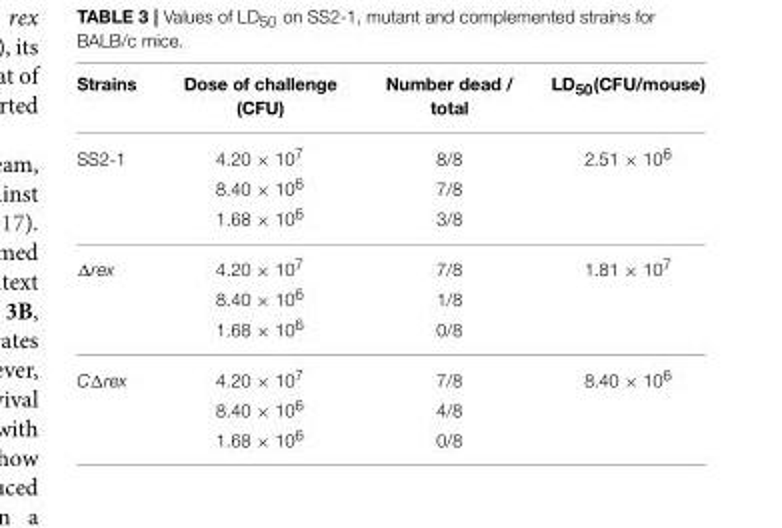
<table><thead><tr><td>Strains</td><td>Dose of challenge (CFU)</td><td>Number dead / total</td><td>LD<sub>50</sub>(CFU/mouse)</td></tr></thead><tbody><tr><td rowspan="3">SS2-1</td><td>4.20 × 10<sup>7</sup></td><td>8/8</td><td>2.51 × 10<sup>6</sup></td></tr><tr><td>8.40 × 10<sup>6</sup></td><td>7/8</td><td></td></tr><tr><td>1.68 × 10<sup>6</sup></td><td>3/8</td><td></td></tr><tr><td rowspan="3">Δrex</td><td>4.20 × 10<sup>7</sup></td><td>7/8</td><td>1.81 × 10<sup>7</sup></td></tr><tr><td>8.40 × 10<sup>6</sup></td><td>1/8</td><td></td></tr><tr><td>1.68 × 10<sup>6</sup></td><td>0/8</td><td></td></tr><tr><td rowspan="3">CΔrex</td><td>4.20 × 10<sup>7</sup></td><td>7/8</td><td>8.40 × 10<sup>6</sup></td></tr><tr><td>8.40 × 10<sup>6</sup></td><td>4/8</td><td></td></tr><tr><td>1.68 × 10<sup>6</sup></td><td>0/8</td><td></td></tr></tbody></table>